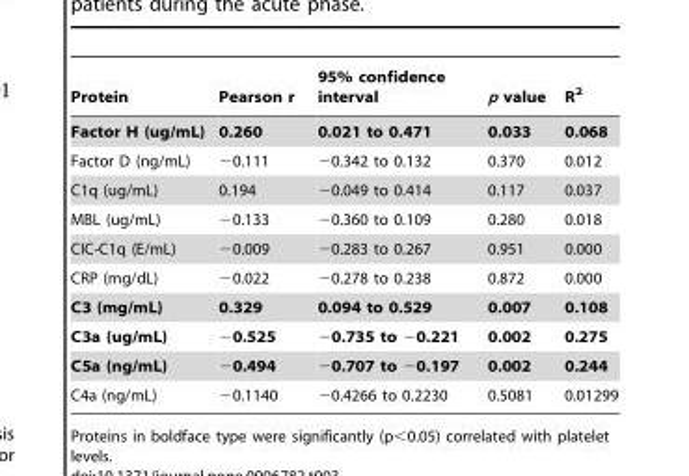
<table><thead><tr><td>Protein</td><td>Pearson r</td><td>95% confidence interval</td><td>p value</td><td>R<sup>2</sup></td></tr></thead><tbody><tr><td>Factor H (ug/mL)</td><td>0.260</td><td>0.021 to 0.471</td><td>0.033</td><td>0.068</td></tr><tr><td>Factor D (ng/mL)</td><td>−0.111</td><td>−0.342 to 0.132</td><td>0.370</td><td>0.012</td></tr><tr><td>C1q (ug/mL)</td><td>0.194</td><td>−0.049 to 0.414</td><td>0.117</td><td>0.037</td></tr><tr><td>MBL (ug/mL)</td><td>−0.133</td><td>−0.360 to 0.109</td><td>0.280</td><td>0.018</td></tr><tr><td>CIC-C1q (E/mL)</td><td>−0.009</td><td>−0.283 to 0.267</td><td>0.951</td><td>0.000</td></tr><tr><td>CRP (mg/dL)</td><td>−0.022</td><td>−0.278 to 0.238</td><td>0.872</td><td>0.000</td></tr><tr><td>C3 (mg/mL)</td><td>0.329</td><td>0.094 to 0.529</td><td>0.007</td><td>0.108</td></tr><tr><td>C3a (ug/mL)</td><td>−0.525</td><td>−0.735 to −0.221</td><td>0.002</td><td>0.275</td></tr><tr><td>C5a (ng/mL)</td><td>−0.494</td><td>−0.707 to −0.197</td><td>0.002</td><td>0.244</td></tr><tr><td>C4a (ng/mL)</td><td>−0.1140</td><td>−0.4266 to 0.2230</td><td>0.5081</td><td>0.01299</td></tr></tbody></table>